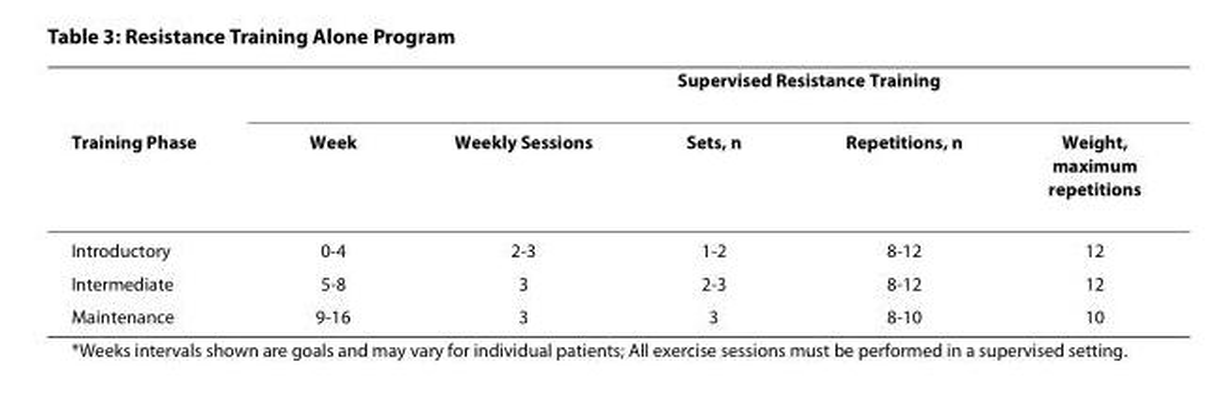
<table><thead><tr><td rowspan="2">Training Phase</td><td rowspan="2">Week</td><td colspan="4">Supervised Resistance Training</td></tr><tr><td>Weekly Sessions</td><td>Sets, n</td><td>Repetitions, n</td><td>Weight, maximum repetitions</td></tr></thead><tbody><tr><td>Introductory</td><td>0-4</td><td>2-3</td><td>1-2</td><td>8-12</td><td>12</td></tr><tr><td>Intermediate</td><td>5-8</td><td>3</td><td>2-3</td><td>8-12</td><td>12</td></tr><tr><td>Maintenance</td><td>9-16</td><td>3</td><td>3</td><td>8-10</td><td>10</td></tr></tbody></table>